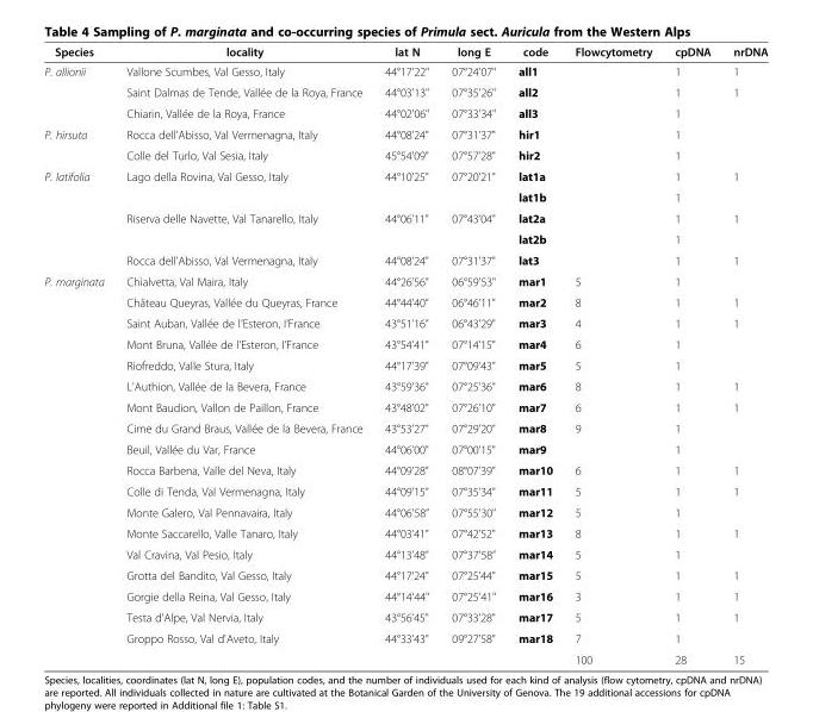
<table><thead><tr><td>Species</td><td>locality</td><td>lat N</td><td>long E</td><td>code</td><td>Flowcytometry</td><td>cpDNA</td><td>nrDNA</td></tr></thead><tbody><tr><td rowspan="3">P. allionii</td><td>Vallone Scumbes, Val Gesso, Italy</td><td>44°17&#x27;22&#x27;&#x27;</td><td>07°24&#x27;07&#x27;&#x27;</td><td>all1</td><td></td><td>1</td><td>1</td></tr><tr><td>Saint Dalmas de Tende, Vallée de la Roya, France</td><td>44°03&#x27;13&#x27;&#x27;</td><td>07°35&#x27;26&#x27;&#x27;</td><td>all2</td><td></td><td>1</td><td>1</td></tr><tr><td>Chiarin, Vallée de la Roya, France</td><td>44°02&#x27;06&#x27;&#x27;</td><td>07°33&#x27;34&#x27;&#x27;</td><td>all3</td><td></td><td>1</td><td></td></tr><tr><td rowspan="2">P. hirsuta</td><td>Rocca dell&#x27;Abisso, Val Vermenagna, Italy</td><td>44°08’24”</td><td>07°31’37&quot;</td><td>hir1</td><td></td><td>1</td><td></td></tr><tr><td>Colle del Turlo, Val Sesia, Italy</td><td>45°54’09”</td><td>07°57’28”</td><td>hir2</td><td></td><td>1</td><td></td></tr><tr><td rowspan="5">P. latifolia</td><td>Lago della Rovina, Val Gesso, Italy</td><td>44°10’25”</td><td>07°20’21”</td><td>lat1a</td><td></td><td>1</td><td>1</td></tr><tr><td></td><td></td><td></td><td>lat1b</td><td></td><td>1</td><td></td></tr><tr><td>Riserva delle Navette, Val Tanarello, Italy</td><td>44°06’11&quot;</td><td>07°43’04”</td><td>lat2a</td><td></td><td>1</td><td>1</td></tr><tr><td></td><td></td><td></td><td>lat2b</td><td></td><td>1</td><td></td></tr><tr><td>Rocca dell&#x27;Abisso, Val Vermenagna, Italy</td><td>44°08’24”</td><td>07°31’37&quot;</td><td>lat3</td><td></td><td>1</td><td>1</td></tr><tr><td rowspan="19">P. marginata</td><td>Chialvetta, Val Maira, Italy</td><td>44°26’56”</td><td>06°59&#x27;53&quot;</td><td>mar1</td><td>5</td><td>1</td><td></td></tr><tr><td>Château Queyras, Vallée du Queyras, France</td><td>44°44’40”</td><td>06°46’11&quot;</td><td>mar2</td><td>8</td><td>1</td><td>1</td></tr><tr><td>Saint Auban, Vallée de l’Esteron, I’France</td><td>43°51’16”</td><td>06°43’29&quot;</td><td>mar3</td><td>4</td><td>1</td><td>1</td></tr><tr><td>Mont Bruna, Vallée de l’Esteron, I’France</td><td>43°54’41”</td><td>07°14’15&quot;</td><td>mar4</td><td>6</td><td>1</td><td></td></tr><tr><td>Riofreddo, Valle Stura, Italy</td><td>44°17’39”</td><td>07°09’43”</td><td>mar5</td><td>5</td><td>1</td><td></td></tr><tr><td>L&#x27;Authion, Vallée de la Bevera, France</td><td>43°59’36”</td><td>07°25’36”</td><td>mar6</td><td>8</td><td>1</td><td>1</td></tr><tr><td>Mont Baudion, Vallon de Paillon, France</td><td>43°48’02&quot;</td><td>07°26’10&quot;</td><td>mar7</td><td>6</td><td>1</td><td>1</td></tr><tr><td>Cime du Grand Braus, Vallée de la Bevera, France</td><td>43°53’27”</td><td>07°29’20”</td><td>mar8</td><td>9</td><td>1</td><td></td></tr><tr><td>Beuil, Vallée du Var, France</td><td>44°06’00&quot;</td><td>07°00’15&quot;</td><td>mar9</td><td></td><td>1</td><td></td></tr><tr><td>Rocca Barbena, Valle del Neva, Italy</td><td>44°09’28”</td><td>08°07’39”</td><td>mar10</td><td>6</td><td>1</td><td>1</td></tr><tr><td>Colle di Tenda, Val Vermenagna, Italy</td><td>44°09’15”</td><td>07°35’34”</td><td>mar11</td><td>5</td><td>1</td><td>1</td></tr><tr><td>Monte Galero, Val Pennavaira, Italy</td><td>44°06&#x27;58”</td><td>07°55&#x27;30&#x27;&#x27;</td><td>mar12</td><td>5</td><td>1</td><td></td></tr><tr><td>Monte Saccarello, Valle Tanaro, Italy</td><td>44°03’41”</td><td>07°42’52&quot;</td><td>mar13</td><td>8</td><td>1</td><td>1</td></tr><tr><td>Val Cravina, Val Pesio, Italy</td><td>44°13’48”</td><td>07°37&#x27;58”</td><td>mar14</td><td>5</td><td>1</td><td></td></tr><tr><td>Grotta del Bandito, Val Gesso, Italy</td><td>44°17’24”</td><td>07°25’44&quot;</td><td>mar15</td><td>5</td><td>1</td><td>1</td></tr><tr><td>Gorgie della Reina, Val Gesso, Italy</td><td>44°14&#x27;44&#x27;&#x27;</td><td>07°25&#x27;41&#x27;&#x27;</td><td>mar16</td><td>3</td><td>1</td><td>1</td></tr><tr><td>Testa d&#x27;Alpe, Val Nervia, Italy</td><td>43°56’45&quot;</td><td>07°33’28&quot;</td><td>mar17</td><td>5</td><td>1</td><td>1</td></tr><tr><td>Groppo Rosso, Val d&#x27;Aveto, Italy</td><td>44°33’43”</td><td>09°27’58&quot;</td><td>mar18</td><td>7</td><td>1</td><td></td></tr><tr><td></td><td></td><td></td><td></td><td>100</td><td>28</td><td>15</td></tr></tbody></table>